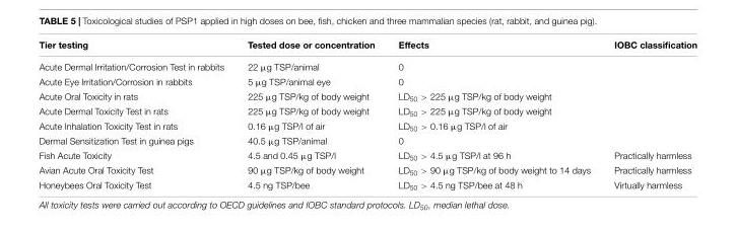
<table><thead><tr><td>Tier testing</td><td>Tested dose or concentration</td><td>Effects</td><td>IOBC classification</td></tr></thead><tbody><tr><td>Acute Dermal Irritation/Corrosion Test in rabbits</td><td>22 µg TSP/animal</td><td>0</td><td></td></tr><tr><td>Acute Eye Irritation/Corrosion in rabbits</td><td>5 µg TSP/animal eye</td><td>0</td><td></td></tr><tr><td>Acute Oral Toxicity in rats</td><td>225 µg TSP/kg of body weight</td><td>LD<sub>50</sub> &gt; 225 µg TSP/kg of body weight</td><td></td></tr><tr><td>Acute Dermal Toxicity Test in rats</td><td>225 µg TSP/kg of body weight</td><td>LD<sub>50</sub> &gt; 225 µg TSP/kg of body weight</td><td></td></tr><tr><td>Acute Inhalation Toxicity Test in rats</td><td>0.16 µg TSP/l of air</td><td>LD<sub>50</sub> &gt; 0.16 µg TSP/l of air</td><td></td></tr><tr><td>Dermal Sensitization Test in guinea pigs</td><td>40.5 µg TSP/animal</td><td>0</td><td></td></tr><tr><td>Fish Acute Toxicity</td><td>4.5 and 0.45 µg TSP/l</td><td>LD<sub>50</sub> &gt; 4.5 µg TSP/l at 96 h</td><td>Practically harmless</td></tr><tr><td>Avian Acute Oral Toxicity Test</td><td>90 µg TSP/kg of body weight</td><td>LD<sub>50</sub> &gt; 90 µg TSP/kg of body weight to 14 days</td><td>Practically harmless</td></tr><tr><td>Honeybees Oral Toxicity Test</td><td>4.5 ng TSP/bee</td><td>LD<sub>50</sub> &gt; 4.5 ng TSP/bee at 48 h</td><td>Virtually harmless</td></tr></tbody></table>